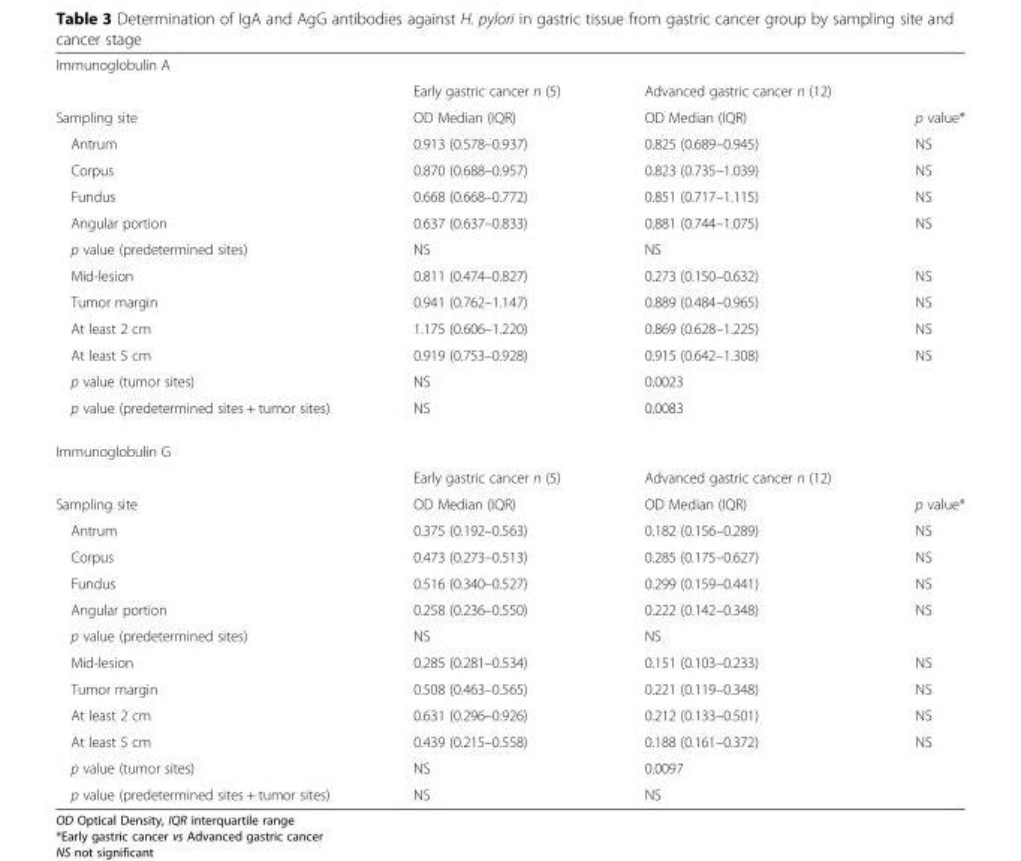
<table><tbody><tr><td colspan="4">Immunoglobulin A</td></tr><tr><td></td><td>Early gastric cancer n (5)</td><td>Advanced gastric cancer n (12)</td><td></td></tr><tr><td>Sampling site</td><td>OD Median (IQR)</td><td>OD Median (IQR)</td><td>p value*</td></tr><tr><td>Antrum</td><td>0.913 (0.578–0.937)</td><td>0.825 (0.689–0.945)</td><td>NS</td></tr><tr><td>Corpus</td><td>0.870 (0.688–0.957)</td><td>0.823 (0.735–1.039)</td><td>NS</td></tr><tr><td>Fundus</td><td>0.668 (0.668–0.772)</td><td>0.851 (0.717–1.115)</td><td>NS</td></tr><tr><td>Angular portion</td><td>0.637 (0.637–0.833)</td><td>0.881 (0.744–1.075)</td><td>NS</td></tr><tr><td>p value (predetermined sites)</td><td>NS</td><td>NS</td><td></td></tr><tr><td>Mid-lesion</td><td>0.811 (0.474–0.827)</td><td>0.273 (0.150–0.632)</td><td>NS</td></tr><tr><td>Tumor margin</td><td>0.941 (0.762–1.147)</td><td>0.889 (0.484–0.965)</td><td>NS</td></tr><tr><td>At least 2 cm</td><td>1.175 (0.606–1.220)</td><td>0.869 (0.628–1.225)</td><td>NS</td></tr><tr><td>At least 5 cm</td><td>0.919 (0.753–0.928)</td><td>0.915 (0.642–1.308)</td><td>NS</td></tr><tr><td>p value (tumor sites)</td><td>NS</td><td>0.0023</td><td></td></tr><tr><td>p value (predetermined sites + tumor sites)</td><td>NS</td><td>0.0083</td><td></td></tr><tr><td colspan="4">Immunoglobulin G</td></tr><tr><td></td><td>Early gastric cancer n (5)</td><td>Advanced gastric cancer n (12)</td><td></td></tr><tr><td>Sampling site</td><td>OD Median (IQR)</td><td>OD Median (IQR)</td><td>p value*</td></tr><tr><td>Antrum</td><td>0.375 (0.192–0.563)</td><td>0.182 (0.156–0.289)</td><td>NS</td></tr><tr><td>Corpus</td><td>0.473 (0.273–0.513)</td><td>0.285 (0.175–0.627)</td><td>NS</td></tr><tr><td>Fundus</td><td>0.516 (0.340–0.527)</td><td>0.299 (0.159–0.441)</td><td>NS</td></tr><tr><td>Angular portion</td><td>0.258 (0.236–0.550)</td><td>0.222 (0.142–0.348)</td><td>NS</td></tr><tr><td>p value (predetermined sites)</td><td>NS</td><td>NS</td><td></td></tr><tr><td>Mid-lesion</td><td>0.285 (0.281–0.534)</td><td>0.151 (0.103–0.233)</td><td>NS</td></tr><tr><td>Tumor margin</td><td>0.508 (0.463–0.565)</td><td>0.221 (0.119–0.348)</td><td>NS</td></tr><tr><td>At least 2 cm</td><td>0.631 (0.296–0.926)</td><td>0.212 (0.133–0.501)</td><td>NS</td></tr><tr><td>At least 5 cm</td><td>0.439 (0.215–0.558)</td><td>0.188 (0.161–0.372)</td><td>NS</td></tr><tr><td>p value (tumor sites)</td><td>NS</td><td>0.0097</td><td></td></tr><tr><td>p value (predetermined sites + tumor sites)</td><td>NS</td><td>NS</td><td></td></tr></tbody></table>